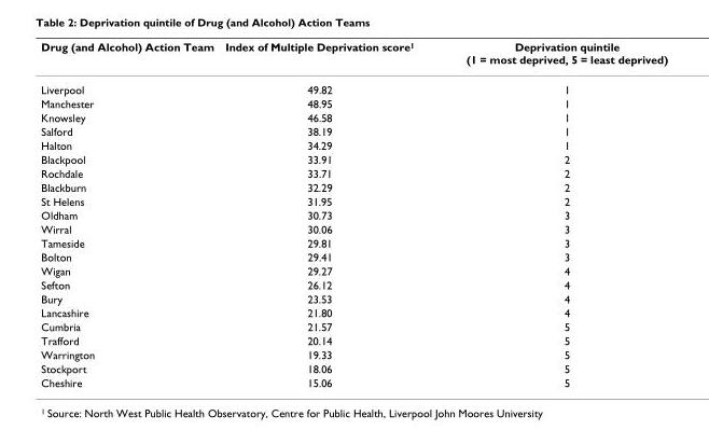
<table><thead><tr><td>Drug (and Alcohol) Action Team</td><td>Index of Multiple Deprivation score<sup>1</sup></td><td>Deprivation quintile (1 = most deprived, 5 = least deprived)</td></tr></thead><tbody><tr><td>Liverpool</td><td>49.82</td><td>1</td></tr><tr><td>Manchester</td><td>48.95</td><td>1</td></tr><tr><td>Knowsley</td><td>46.58</td><td>1</td></tr><tr><td>Salford</td><td>38.19</td><td>1</td></tr><tr><td>Halton</td><td>34.29</td><td>1</td></tr><tr><td>Blackpool</td><td>33.91</td><td>2</td></tr><tr><td>Rochdale</td><td>33.71</td><td>2</td></tr><tr><td>Blackburn</td><td>32.29</td><td>2</td></tr><tr><td>St Helens</td><td>31.95</td><td>2</td></tr><tr><td>Oldham</td><td>30.73</td><td>3</td></tr><tr><td>Wirral</td><td>30.06</td><td>3</td></tr><tr><td>Tameside</td><td>29.81</td><td>3</td></tr><tr><td>Bolton</td><td>29.41</td><td>3</td></tr><tr><td>Wigan</td><td>29.27</td><td>4</td></tr><tr><td>Sefton</td><td>26.12</td><td>4</td></tr><tr><td>Bury</td><td>23.53</td><td>4</td></tr><tr><td>Lancashire</td><td>21.80</td><td>4</td></tr><tr><td>Cumbria</td><td>21.57</td><td>5</td></tr><tr><td>Trafford</td><td>20.14</td><td>5</td></tr><tr><td>Warrington</td><td>19.33</td><td>5</td></tr><tr><td>Stockport</td><td>18.06</td><td>5</td></tr><tr><td>Cheshire</td><td>15.06</td><td>5</td></tr></tbody></table>